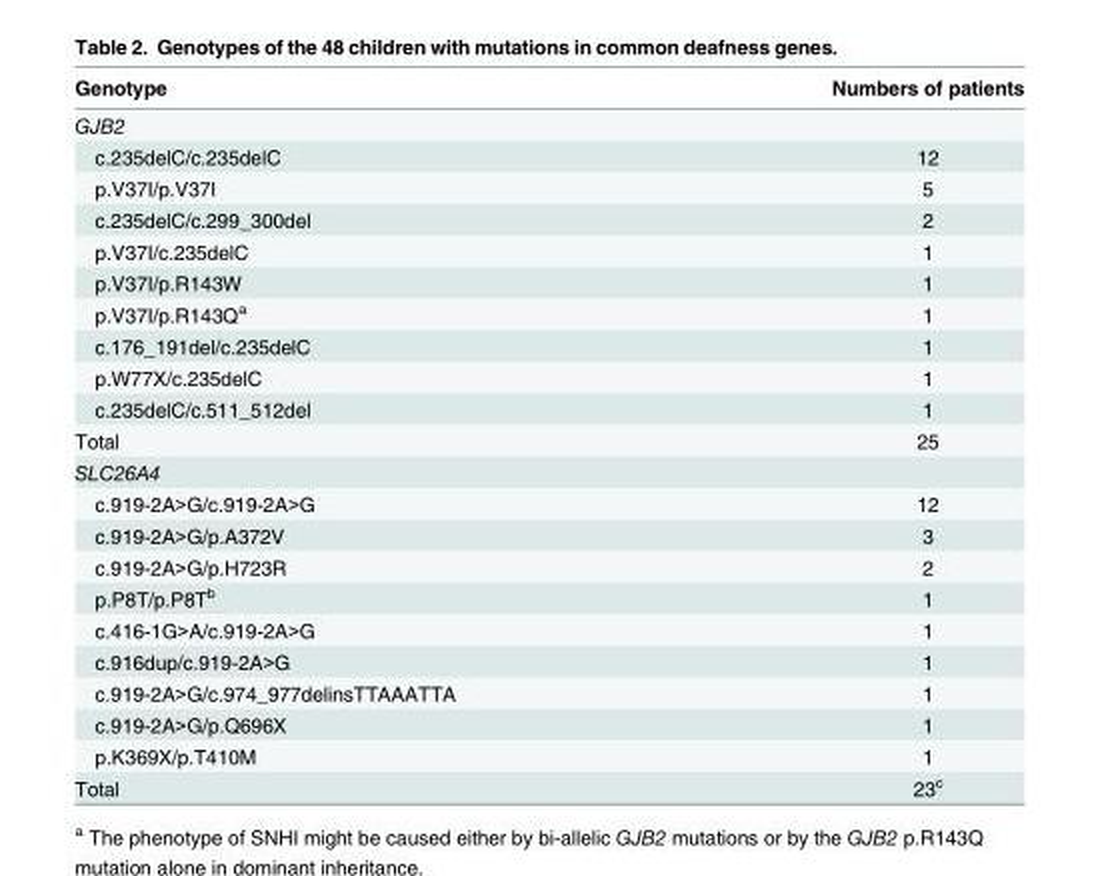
<table><thead><tr><td>Genotype</td><td>Numbers of patients</td></tr></thead><tbody><tr><td colspan="2">GJB2</td></tr><tr><td>c.235delC/c.235delC</td><td>12</td></tr><tr><td>p.V37I/p.V37I</td><td>5</td></tr><tr><td>c.235delC/c.299_300del</td><td>2</td></tr><tr><td>p.V37I/c.235delC</td><td>1</td></tr><tr><td>p.V37I/p.R143W</td><td>1</td></tr><tr><td>p.V37I/p.R143Q<sup>a</sup></td><td>1</td></tr><tr><td>c.176_191del/c.235delC</td><td>1</td></tr><tr><td>p.W77X/c.235delC</td><td>1</td></tr><tr><td>c.235delC/c.511_512del</td><td>1</td></tr><tr><td>Total</td><td>25</td></tr><tr><td colspan="2">SLC26A4</td></tr><tr><td>c.919-2A&gt;G/c.919-2A&gt;G</td><td>12</td></tr><tr><td>c.919-2A&gt;G/p.A372V</td><td>3</td></tr><tr><td>c.919-2A&gt;G/p.H723R</td><td>2</td></tr><tr><td>p.P8T/p.P8T<sup>b</sup></td><td>1</td></tr><tr><td>c.416-1G&gt;A/c.919-2A&gt;G</td><td>1</td></tr><tr><td>c.916dup/c.919-2A&gt;G</td><td>1</td></tr><tr><td>c.919-2A&gt;G/c.974_977delinsTTAAATTA</td><td>1</td></tr><tr><td>c.919-2A&gt;G/p.Q696X</td><td>1</td></tr><tr><td>p.K369X/p.T410M</td><td>1</td></tr><tr><td>Total</td><td>23<sup>c</sup></td></tr></tbody></table>